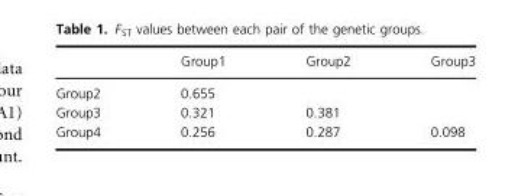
<table><thead><tr><td></td><td>Group1</td><td>Group2</td><td>Group3</td></tr></thead><tbody><tr><td>Group2</td><td>0.655</td><td></td><td></td></tr><tr><td>Group3</td><td>0.321</td><td>0.381</td><td></td></tr><tr><td>Group4</td><td>0.256</td><td>0.287</td><td>0.098</td></tr></tbody></table>